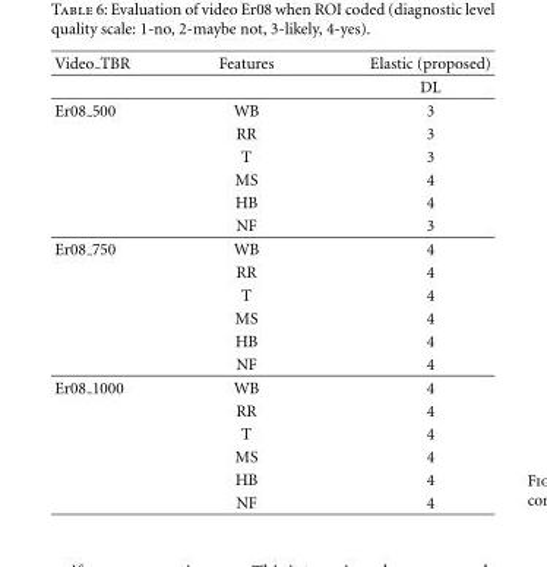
<table><thead><tr><td rowspan="2">Video TBR</td><td rowspan="2">Features</td><td rowspan="2">Elastic (proposed) DL</td></tr><tr></tr></thead><tbody><tr><td rowspan="6">Er08 500</td><td>WB</td><td>3</td></tr><tr><td>RR</td><td>3</td></tr><tr><td>T</td><td>3</td></tr><tr><td>MS</td><td>4</td></tr><tr><td>HB</td><td>4</td></tr><tr><td>NF</td><td>3</td></tr><tr><td rowspan="6">Er08 750</td><td>WB</td><td>4</td></tr><tr><td>RR</td><td>4</td></tr><tr><td>T</td><td>4</td></tr><tr><td>MS</td><td>4</td></tr><tr><td>HB</td><td>4</td></tr><tr><td>NF</td><td>4</td></tr><tr><td rowspan="6">Er08 1000</td><td>WB</td><td>4</td></tr><tr><td>RR</td><td>4</td></tr><tr><td>T</td><td>4</td></tr><tr><td>MS</td><td>4</td></tr><tr><td>HB</td><td>4</td></tr><tr><td>NF</td><td>4</td></tr></tbody></table>